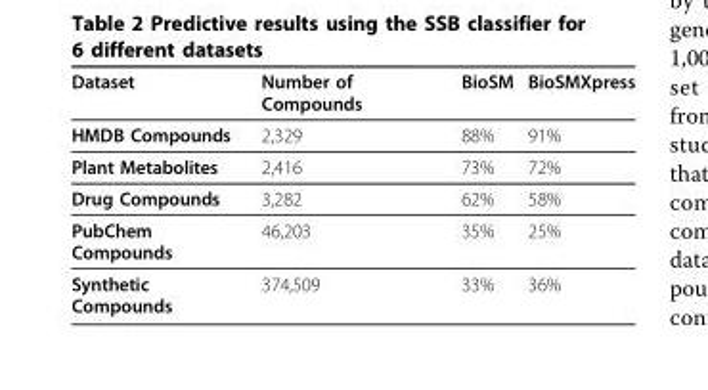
<table><thead><tr><td>Dataset</td><td>Number of Compounds</td><td>BioSM</td><td>BioSMXpress</td></tr></thead><tbody><tr><td>HMDB Compounds</td><td>2,329</td><td>88%</td><td>91%</td></tr><tr><td>Plant Metabolites</td><td>2,416</td><td>73%</td><td>72%</td></tr><tr><td>Drug Compounds</td><td>3,282</td><td>62%</td><td>58%</td></tr><tr><td>PubChem Compounds</td><td>46,203</td><td>35%</td><td>25%</td></tr><tr><td>Synthetic Compounds</td><td>374,509</td><td>33%</td><td>36%</td></tr></tbody></table>